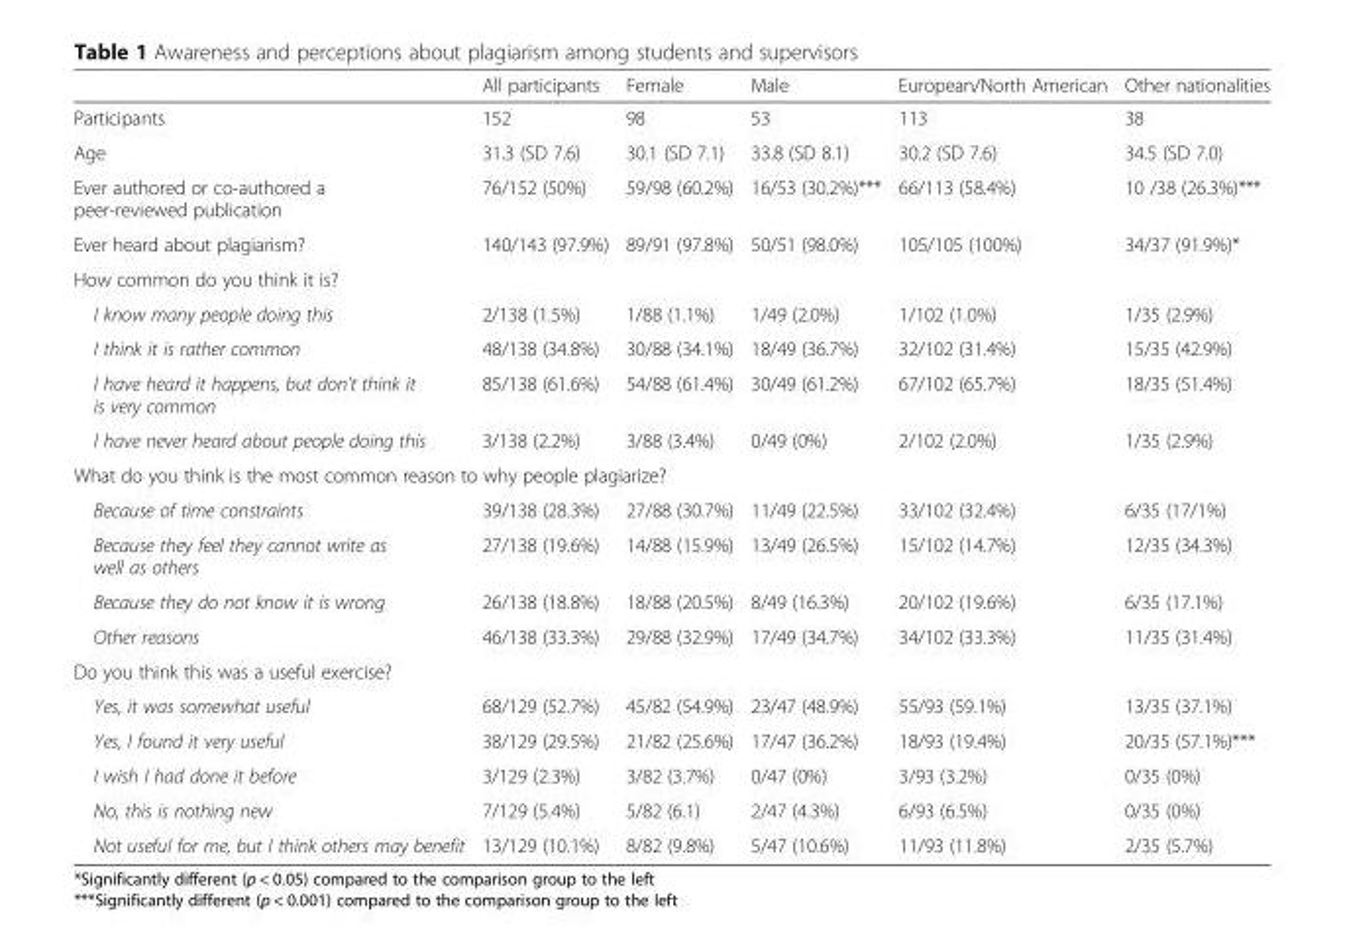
<table><thead><tr><td></td><td>All participants</td><td>Female</td><td>Male</td><td>European/North American</td><td>Other nationalities</td></tr></thead><tbody><tr><td>Participants</td><td>152</td><td>98</td><td>53</td><td>113</td><td>38</td></tr><tr><td>Age</td><td>31.3 (SD 7.6)</td><td>30.1 (SD 7.1)</td><td>33.8 (SD 8.1)</td><td>30.2 (SD 7.6)</td><td>34.5 (SD 7.0)</td></tr><tr><td>Ever authored or co-authored a peer-reviewed publication</td><td>76/152 (50%)</td><td>59/98 (60.2%)</td><td>16/53 (30.2%)***</td><td>66/113 (58.4%)</td><td>10 /38 (26.3%)***</td></tr><tr><td>Ever heard about plagiarism?</td><td>140/143 (97.9%)</td><td>89/91 (97.8%)</td><td>50/51 (98.0%)</td><td>105/105 (100%)</td><td>34/37 (91.9%)*</td></tr><tr><td colspan="6">How common do you think it is?</td></tr><tr><td>I know many people doing this</td><td>2/138 (1.5%)</td><td>1/88 (1.1%)</td><td>1/49 (2.0%)</td><td>1/102 (1.0%)</td><td>1/35 (2.9%)</td></tr><tr><td>I think it is rather common</td><td>48/138 (34.8%)</td><td>30/88 (34.1%)</td><td>18/49 (36.7%)</td><td>32/102 (31.4%)</td><td>15/35 (42.9%)</td></tr><tr><td>I have heard it happens, but don’t think it is very common</td><td>85/138 (61.6%)</td><td>54/88 (61.4%)</td><td>30/49 (61.2%)</td><td>67/102 (65.7%)</td><td>18/35 (51.4%)</td></tr><tr><td>I have never heard about people doing this</td><td>3/138 (2.2%)</td><td>3/88 (3.4%)</td><td>0/49 (0%)</td><td>2/102 (2.0%)</td><td>1/35 (2.9%)</td></tr><tr><td colspan="6">What do you think is the most common reason to why people plagiarize?</td></tr><tr><td>Because of time constraints</td><td>39/138 (28.3%)</td><td>27/88 (30.7%)</td><td>11/49 (22.5%)</td><td>33/102 (32.4%)</td><td>6/35 (17/1%)</td></tr><tr><td>Because they feel they cannot write as well as others</td><td>27/138 (19.6%)</td><td>14/88 (15.9%)</td><td>13/49 (26.5%)</td><td>15/102 (14.7%)</td><td>12/35 (34.3%)</td></tr><tr><td>Because they do not know it is wrong</td><td>26/138 (18.8%)</td><td>18/88 (20.5%)</td><td>8/49 (16.3%)</td><td>20/102 (19.6%)</td><td>6/35 (17.1%)</td></tr><tr><td>Other reasons</td><td>46/138 (33.3%)</td><td>29/88 (32.9%)</td><td>17/49 (34.7%)</td><td>34/102 (33.3%)</td><td>11/35 (31.4%)</td></tr><tr><td colspan="6">Do you think this was a useful exercise?</td></tr><tr><td>Yes, it was somewhat useful</td><td>68/129 (52.7%)</td><td>45/82 (54.9%)</td><td>23/47 (48.9%)</td><td>55/93 (59.1%)</td><td>13/35 (37.1%)</td></tr><tr><td>Yes, I found it very useful</td><td>38/129 (29.5%)</td><td>21/82 (25.6%)</td><td>17/47 (36.2%)</td><td>18/93 (19.4%)</td><td>20/35 (57.1%)***</td></tr><tr><td>I wish I had done it before</td><td>3/129 (2.3%)</td><td>3/82 (3.7%)</td><td>0/47 (0%)</td><td>3/93 (3.2%)</td><td>0/35 (0%)</td></tr><tr><td>No, this is nothing new</td><td>7/129 (5.4%)</td><td>5/82 (6.1)</td><td>2/47 (4.3%)</td><td>6/93 (6.5%)</td><td>0/35 (0%)</td></tr><tr><td>Not useful for me, but I think others may benefit</td><td>13/129 (10.1%)</td><td>8/82 (9.8%)</td><td>5/47 (10.6%)</td><td>11/93 (11.8%)</td><td>2/35 (5.7%)</td></tr></tbody></table>